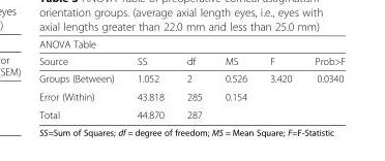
<table><thead><tr><td colspan="6">ANOVA Table</td></tr><tr><td>Source</td><td>SS</td><td>df</td><td>MS</td><td>F</td><td>Prob&gt;F</td></tr></thead><tbody><tr><td>Groups (Between)</td><td>1.052</td><td>2</td><td>0.526</td><td>3.420</td><td>0.0340</td></tr><tr><td>Error (Within)</td><td>43.818</td><td>285</td><td>0.154</td><td></td><td></td></tr><tr><td>Total</td><td>44.870</td><td>287</td><td></td><td></td><td></td></tr></tbody></table>